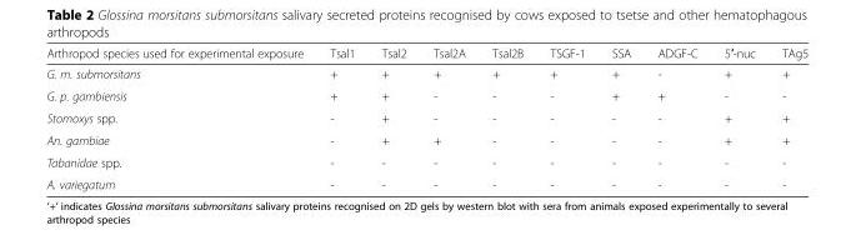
<table><thead><tr><td>Arthropod species used for experimental exposure</td><td>Tsal1</td><td>Tsal2</td><td>Tsal2A</td><td>Tsal2B</td><td>TSGF-1</td><td>SSA</td><td>ADGF-C</td><td>5′-nuc</td><td>TAg5</td></tr></thead><tbody><tr><td>G. m. submorsitans</td><td>+</td><td>+</td><td>+</td><td>+</td><td>+</td><td>+</td><td>-</td><td>+</td><td>+</td></tr><tr><td>G. p. gambiensis</td><td>+</td><td>+</td><td>-</td><td>-</td><td>-</td><td>+</td><td>+</td><td>-</td><td>-</td></tr><tr><td>Stomoxys spp.</td><td>-</td><td>+</td><td>-</td><td>-</td><td>-</td><td>-</td><td>-</td><td>+</td><td>+</td></tr><tr><td>An. gambiae</td><td>-</td><td>+</td><td>+</td><td>-</td><td>-</td><td>-</td><td>-</td><td>+</td><td>+</td></tr><tr><td>Tabanidae spp.</td><td>-</td><td>-</td><td>-</td><td>-</td><td>-</td><td>-</td><td>-</td><td>-</td><td>-</td></tr><tr><td>A. variegatum</td><td>-</td><td>-</td><td>-</td><td>-</td><td>-</td><td>-</td><td>-</td><td>-</td><td>-</td></tr></tbody></table>